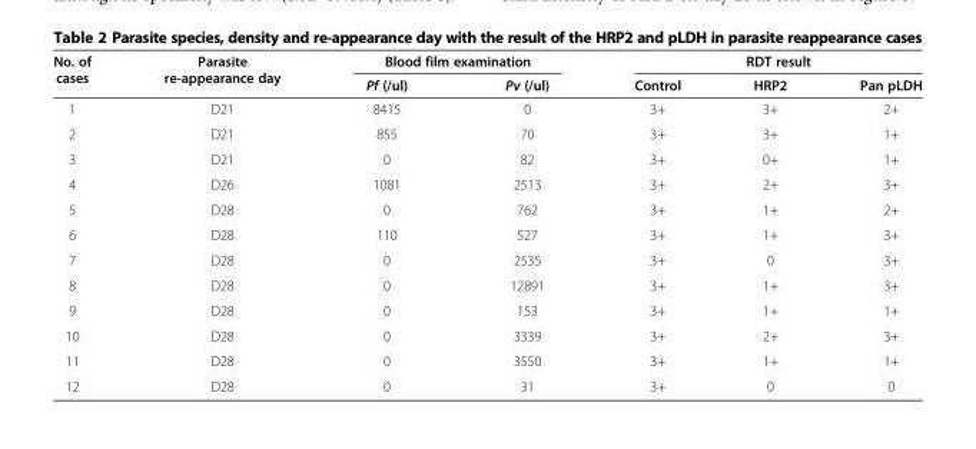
<table><thead><tr><td rowspan="2">No. of cases</td><td rowspan="2">Parasite re-appearance day</td><td colspan="2">Blood film examination</td><td colspan="3">RDT result</td></tr><tr><td>Pf (/ul)</td><td>Pv (/ul)</td><td>Control</td><td>HRP2</td><td>Pan pLDH</td></tr></thead><tbody><tr><td>1</td><td>D21</td><td>8415</td><td>0</td><td>3+</td><td>3+</td><td>2+</td></tr><tr><td>2</td><td>D21</td><td>855</td><td>70</td><td>3+</td><td>3+</td><td>1+</td></tr><tr><td>3</td><td>D21</td><td>0</td><td>82</td><td>3+</td><td>0+</td><td>1+</td></tr><tr><td>4</td><td>D26</td><td>1081</td><td>2513</td><td>3+</td><td>2+</td><td>3+</td></tr><tr><td>5</td><td>D28</td><td>0</td><td>762</td><td>3+</td><td>1+</td><td>2+</td></tr><tr><td>6</td><td>D28</td><td>110</td><td>527</td><td>3+</td><td>1+</td><td>3+</td></tr><tr><td>7</td><td>D28</td><td>0</td><td>2535</td><td>3+</td><td>0</td><td>3+</td></tr><tr><td>8</td><td>D28</td><td>0</td><td>12891</td><td>3+</td><td>1+</td><td>3+</td></tr><tr><td>9</td><td>D28</td><td>0</td><td>153</td><td>3+</td><td>1+</td><td>1+</td></tr><tr><td>10</td><td>D28</td><td>0</td><td>3339</td><td>3+</td><td>2+</td><td>3+</td></tr><tr><td>11</td><td>D28</td><td>0</td><td>3550</td><td>3+</td><td>1+</td><td>1+</td></tr><tr><td>12</td><td>D28</td><td>0</td><td>31</td><td>3+</td><td>0</td><td>0</td></tr></tbody></table>